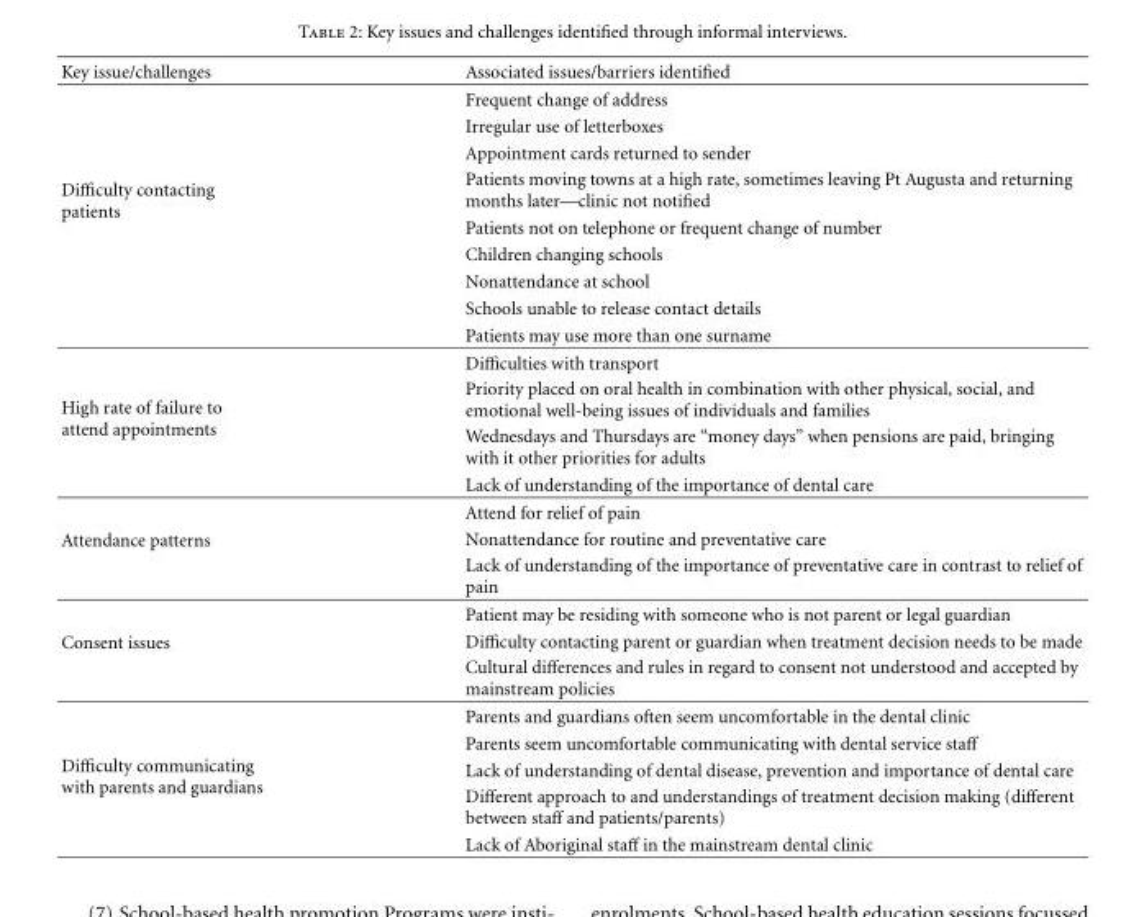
<table><thead><tr><td>Key issue/challenges</td><td>Associated issues/barriers identified</td></tr></thead><tbody><tr><td rowspan="9">Difficulty contacting patients</td><td>Frequent change of address</td></tr><tr><td>Irregular use of letterboxes</td></tr><tr><td>Appointment cards returned to sender</td></tr><tr><td>Patients moving towns at a high rate, sometimes leaving Pt Augusta and returning months later—clinic not notified</td></tr><tr><td>Patients not on telephone or frequent change of number</td></tr><tr><td>Children changing schools</td></tr><tr><td>Nonattendance at school</td></tr><tr><td>Schools unable to release contact details</td></tr><tr><td>Patients may use more than one surname</td></tr><tr><td rowspan="4">High rate of failure to attend appointments</td><td>Difficulties with transport</td></tr><tr><td>Priority placed on oral health in combination with other physical, social, and emotional well-being issues of individuals and families</td></tr><tr><td>Wednesdays and Thursdays are “money days” when pensions are paid, bringing with it other priorities for adults</td></tr><tr><td>Lack of understanding of the importance of dental care</td></tr><tr><td rowspan="3">Attendance patterns</td><td>Attend for relief of pain</td></tr><tr><td>Nonattendance for routine and preventative care</td></tr><tr><td>Lack of understanding of the importance of preventative care in contrast to relief of pain</td></tr><tr><td rowspan="3">Consent issues</td><td>Patient may be residing with someone who is not parent or legal guardian</td></tr><tr><td>Difficulty contacting parent or guardian when treatment decision needs to be made</td></tr><tr><td>Cultural differences and rules in regard to consent not understood and accepted by mainstream policies</td></tr><tr><td rowspan="5">Difficulty communicating with parents and guardians</td><td>Parents and guardians often seem uncomfortable in the dental clinic</td></tr><tr><td>Parents seem uncomfortable communicating with dental service staff</td></tr><tr><td>Lack of understanding of dental disease, prevention and importance of dental care</td></tr><tr><td>Different approach to and understandings of treatment decision making (different between staff and patients/parents)</td></tr><tr><td>Lack of Aboriginal staff in the mainstream dental clinic</td></tr></tbody></table>